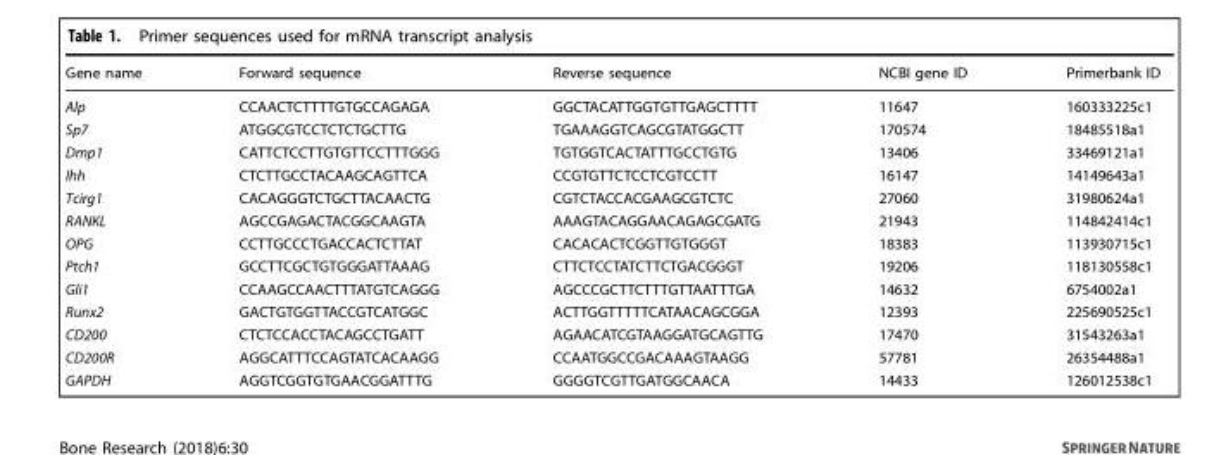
<table><thead><tr><td>Gene name</td><td>Forward sequence</td><td>Reverse sequence</td><td>NCBI gene ID</td><td>Primerbank ID</td></tr></thead><tbody><tr><td>Alp</td><td>CCAACTCTTTTGTGCCAGAGA</td><td>GGCTACATTGGTGTTGAGCTTTT</td><td>11647</td><td>160333225c1</td></tr><tr><td>Sp7</td><td>ATGGCGTCCTCTCTGCTTG</td><td>TGAAAGGTCAGCGTATGGCTT</td><td>170574</td><td>18485518a1</td></tr><tr><td>Dmp1</td><td>CATTCTCCTTGTGTTCCTTTGGG</td><td>TGTGGTCACTATTTGCCTGTG</td><td>13406</td><td>33469121a1</td></tr><tr><td>Ihh</td><td>CTCTTGCCTACAAGCAGTTCA</td><td>CCGTGTTCTCCTCGTCCTT</td><td>16147</td><td>14149643a1</td></tr><tr><td>Tcirg1</td><td>CACAGGGTCTGCTTACAACTG</td><td>CGTCTACCACGAAGCGTCTC</td><td>27060</td><td>31980624a1</td></tr><tr><td>RANKL</td><td>AGCCGAGACTACGGCAAGTA</td><td>AAAGTACAGGAACAGAGCGATG</td><td>21943</td><td>114842414c1</td></tr><tr><td>OPG</td><td>CCTTGCCCTGACCACTCTTAT</td><td>CACACACTCGGTTGTGGGT</td><td>18383</td><td>113930715c1</td></tr><tr><td>Ptch1</td><td>GCCTTCGCTGTGGGATTAAAG</td><td>CTTCTCCTATCTTCTGACGGGT</td><td>19206</td><td>118130558c1</td></tr><tr><td>Gli1</td><td>CCAAGCCAACTTTATGTCAGGG</td><td>AGCCCGCTTCTTTGTTAATTTGA</td><td>14632</td><td>6754002a1</td></tr><tr><td>Runx2</td><td>GACTGTGGTTACCGTCATGGC</td><td>ACTTGGTTTTTCATAACAGCGGA</td><td>12393</td><td>225690525c1</td></tr><tr><td>CD200</td><td>CTCTCCACCTACAGCCTGATT</td><td>AGAACATCGTAAGGATGCAGTTG</td><td>17470</td><td>31543263a1</td></tr><tr><td>CD200R</td><td>AGGCATTTCCAGTATCACAAGG</td><td>CCAATGGCCGACAAAGTAAGG</td><td>57781</td><td>26354488a1</td></tr><tr><td>GAPDH</td><td>AGGTCGGTGTGAACGGATTTG</td><td>GGGGTCGTTGATGGCAACA</td><td>14433</td><td>126012538c1</td></tr></tbody></table>